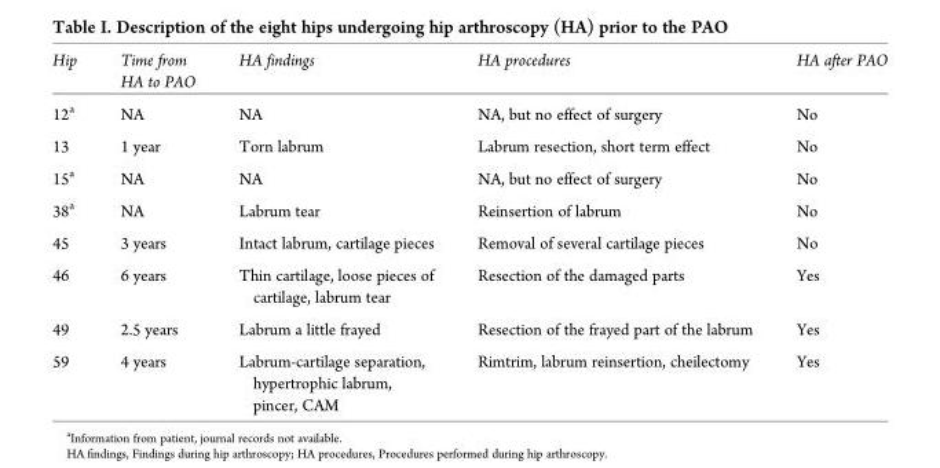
<table><thead><tr><td>Hip</td><td>Time from HA to PAO</td><td>HA findings</td><td>HA procedures</td><td>HA after PAO</td></tr></thead><tbody><tr><td>12<sup>a</sup></td><td>NA</td><td>NA</td><td>NA, but no effect of surgery</td><td>No</td></tr><tr><td>13</td><td>1 year</td><td>Torn labrum</td><td>Labrum resection, short term effect</td><td>No</td></tr><tr><td>15<sup>a</sup></td><td>NA</td><td>NA</td><td>NA, but no effect of surgery</td><td>No</td></tr><tr><td>38<sup>a</sup></td><td>NA</td><td>Labrum tear</td><td>Reinsertion of labrum</td><td>No</td></tr><tr><td>45</td><td>3 years</td><td>Intact labrum, cartilage pieces</td><td>Removal of several cartilage pieces</td><td>No</td></tr><tr><td>46</td><td>6 years</td><td>Thin cartilage, loose pieces of cartilage, labrum tear</td><td>Resection of the damaged parts</td><td>Yes</td></tr><tr><td>49</td><td>2.5 years</td><td>Labrum a little frayed</td><td>Resection of the frayed part of the labrum</td><td>Yes</td></tr><tr><td>59</td><td>4 years</td><td>Labrum-cartilage separation, hypertrophic labrum, pincer, CAM</td><td>Rimtrim, labrum reinsertion, cheilectomy</td><td>Yes</td></tr></tbody></table>